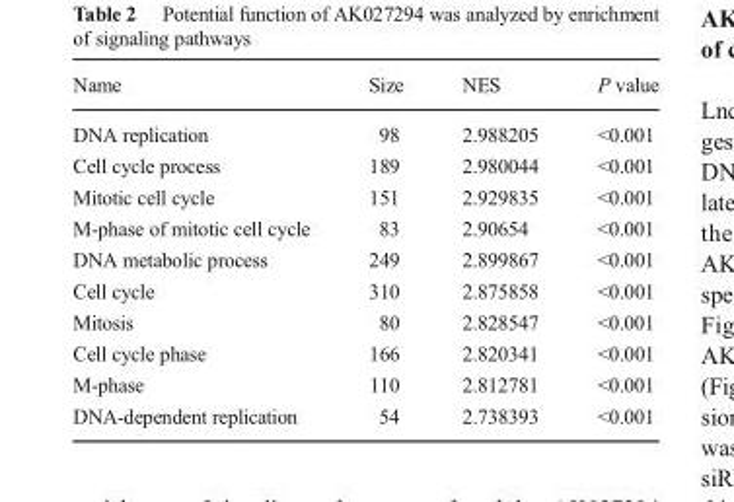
<table><thead><tr><td>Name</td><td>Size</td><td>NES</td><td>P value</td></tr></thead><tbody><tr><td>DNA replication</td><td>98</td><td>2.988205</td><td>&lt;0.001</td></tr><tr><td>Cell cycle process</td><td>189</td><td>2.980044</td><td>&lt;0.001</td></tr><tr><td>Mitotic cell cycle</td><td>151</td><td>2.929835</td><td>&lt;0.001</td></tr><tr><td>M-phase of mitotic cell cycle</td><td>83</td><td>2.90654</td><td>&lt;0.001</td></tr><tr><td>DNA metabolic process</td><td>249</td><td>2.899867</td><td>&lt;0.001</td></tr><tr><td>Cell cycle</td><td>310</td><td>2.875858</td><td>&lt;0.001</td></tr><tr><td>Mitosis</td><td>80</td><td>2.828547</td><td>&lt;0.001</td></tr><tr><td>Cell cycle phase</td><td>166</td><td>2.820341</td><td>&lt;0.001</td></tr><tr><td>M-phase</td><td>110</td><td>2.812781</td><td>&lt;0.001</td></tr><tr><td>DNA-dependent replication</td><td>54</td><td>2.738393</td><td>&lt;0.001</td></tr></tbody></table>